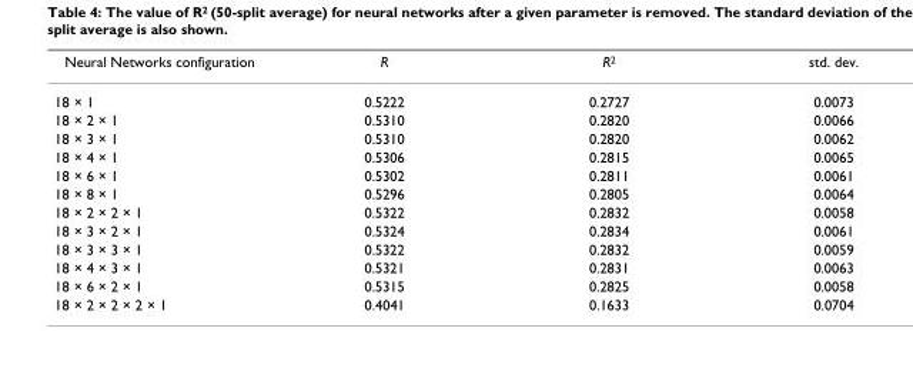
<table><thead><tr><td>Neural Networks configuration</td><td>R</td><td>R<sup>2</sup></td><td>std. dev.</td></tr></thead><tbody><tr><td>18 × 1</td><td>0.5222</td><td>0.2727</td><td>0.0073</td></tr><tr><td>18 × 2 × 1</td><td>0.5310</td><td>0.2820</td><td>0.0066</td></tr><tr><td>18 × 3 × 1</td><td>0.5310</td><td>0.2820</td><td>0.0062</td></tr><tr><td>18 × 4 × 1</td><td>0.5306</td><td>0.2815</td><td>0.0065</td></tr><tr><td>18 × 6 × 1</td><td>0.5302</td><td>0.2811</td><td>0.0061</td></tr><tr><td>18 × 8 × 1</td><td>0.5296</td><td>0.2805</td><td>0.0064</td></tr><tr><td>18 × 2 × 2 × 1</td><td>0.5322</td><td>0.2832</td><td>0.0058</td></tr><tr><td>18 × 3 × 2 × 1</td><td>0.5324</td><td>0.2834</td><td>0.0061</td></tr><tr><td>18 × 3 × 3 × 1</td><td>0.5322</td><td>0.2832</td><td>0.0059</td></tr><tr><td>18 × 4 × 3 × 1</td><td>0.5321</td><td>0.2831</td><td>0.0063</td></tr><tr><td>18 × 6 × 2 × 1</td><td>0.5315</td><td>0.2825</td><td>0.0058</td></tr><tr><td>18 × 2 × 2 × 2 × 1</td><td>0.4041</td><td>0.1633</td><td>0.0704</td></tr></tbody></table>